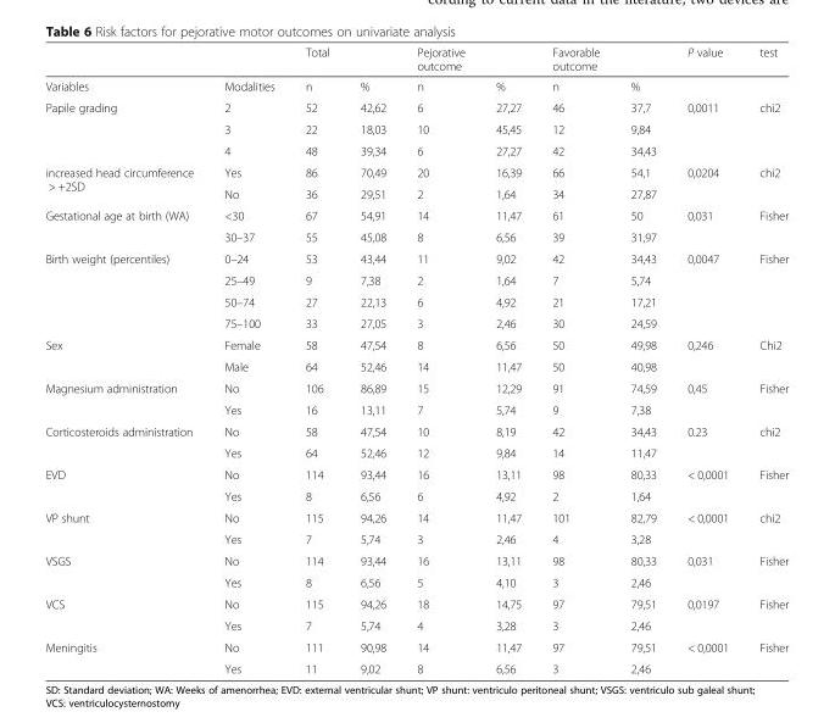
<table><thead><tr><td></td><td></td><td>Total</td><td></td><td>Pejorative outcome</td><td></td><td>Favorable outcome</td><td></td><td>P value</td><td>test</td></tr></thead><tbody><tr><td>Variables</td><td>Modalities</td><td>n</td><td>%</td><td>n</td><td>%</td><td>n</td><td>%</td><td></td><td></td></tr><tr><td rowspan="3">Papile grading</td><td>2</td><td>52</td><td>42,62</td><td>6</td><td>27,27</td><td>46</td><td>37,7</td><td>0,0011</td><td>chi2</td></tr><tr><td>3</td><td>22</td><td>18,03</td><td>10</td><td>45,45</td><td>12</td><td>9,84</td><td></td><td></td></tr><tr><td>4</td><td>48</td><td>39,34</td><td>6</td><td>27,27</td><td>42</td><td>34,43</td><td></td><td></td></tr><tr><td rowspan="2">increased head circumference &gt; +2SD</td><td>Yes</td><td>86</td><td>70,49</td><td>20</td><td>16,39</td><td>66</td><td>54,1</td><td>0,0204</td><td>chi2</td></tr><tr><td>No</td><td>36</td><td>29,51</td><td>2</td><td>1,64</td><td>34</td><td>27,87</td><td></td><td></td></tr><tr><td rowspan="2">Gestational age at birth (WA)</td><td>&lt;30</td><td>67</td><td>54,91</td><td>14</td><td>11,47</td><td>61</td><td>50</td><td>0,031</td><td>Fisher</td></tr><tr><td>30–37</td><td>55</td><td>45,08</td><td>8</td><td>6,56</td><td>39</td><td>31,97</td><td></td><td></td></tr><tr><td rowspan="4">Birth weight (percentiles)</td><td>0–24</td><td>53</td><td>43,44</td><td>11</td><td>9,02</td><td>42</td><td>34,43</td><td>0,0047</td><td>Fisher</td></tr><tr><td>25–49</td><td>9</td><td>7,38</td><td>2</td><td>1,64</td><td>7</td><td>5,74</td><td></td><td></td></tr><tr><td>50–74</td><td>27</td><td>22,13</td><td>6</td><td>4,92</td><td>21</td><td>17,21</td><td></td><td></td></tr><tr><td>75–100</td><td>33</td><td>27,05</td><td>3</td><td>2,46</td><td>30</td><td>24,59</td><td></td><td></td></tr><tr><td rowspan="2">Sex</td><td>Female</td><td>58</td><td>47,54</td><td>8</td><td>6,56</td><td>50</td><td>49,98</td><td>0,246</td><td>Chi2</td></tr><tr><td>Male</td><td>64</td><td>52,46</td><td>14</td><td>11,47</td><td>50</td><td>40,98</td><td></td><td></td></tr><tr><td rowspan="2">Magnesium administration</td><td>No</td><td>106</td><td>86,89</td><td>15</td><td>12,29</td><td>91</td><td>74,59</td><td>0,45</td><td>Fisher</td></tr><tr><td>Yes</td><td>16</td><td>13,11</td><td>7</td><td>5,74</td><td>9</td><td>7,38</td><td></td><td></td></tr><tr><td rowspan="2">Corticosteroids administration</td><td>No</td><td>58</td><td>47,54</td><td>10</td><td>8,19</td><td>42</td><td>34,43</td><td>0.23</td><td>chi2</td></tr><tr><td>Yes</td><td>64</td><td>52,46</td><td>12</td><td>9,84</td><td>14</td><td>11,47</td><td></td><td></td></tr><tr><td rowspan="2">EVD</td><td>No</td><td>114</td><td>93,44</td><td>16</td><td>13,11</td><td>98</td><td>80,33</td><td>&lt; 0,0001</td><td>Fisher</td></tr><tr><td>Yes</td><td>8</td><td>6,56</td><td>6</td><td>4,92</td><td>2</td><td>1,64</td><td></td><td></td></tr><tr><td rowspan="2">VP shunt</td><td>No</td><td>115</td><td>94,26</td><td>14</td><td>11,47</td><td>101</td><td>82,79</td><td>&lt; 0,0001</td><td>chi2</td></tr><tr><td>Yes</td><td>7</td><td>5,74</td><td>3</td><td>2,46</td><td>4</td><td>3,28</td><td></td><td></td></tr><tr><td rowspan="2">VSGS</td><td>No</td><td>114</td><td>93,44</td><td>16</td><td>13,11</td><td>98</td><td>80,33</td><td>0,031</td><td>Fisher</td></tr><tr><td>Yes</td><td>8</td><td>6,56</td><td>5</td><td>4,10</td><td>3</td><td>2,46</td><td></td><td></td></tr><tr><td rowspan="2">VCS</td><td>No</td><td>115</td><td>94,26</td><td>18</td><td>14,75</td><td>97</td><td>79,51</td><td>0,0197</td><td>Fisher</td></tr><tr><td>Yes</td><td>7</td><td>5,74</td><td>4</td><td>3,28</td><td>3</td><td>2,46</td><td></td><td></td></tr><tr><td rowspan="2">Meningitis</td><td>No</td><td>111</td><td>90,98</td><td>14</td><td>11,47</td><td>97</td><td>79,51</td><td>&lt; 0,0001</td><td>Fisher</td></tr><tr><td>Yes</td><td>11</td><td>9,02</td><td>8</td><td>6,56</td><td>3</td><td>2,46</td><td></td><td></td></tr></tbody></table>